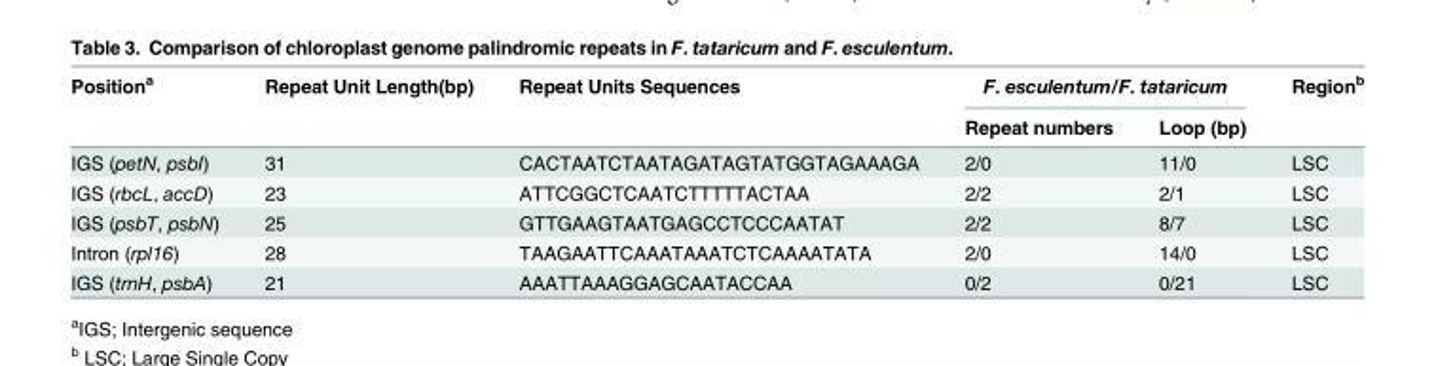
<table><thead><tr><td rowspan="2">Position<sup>a</sup></td><td rowspan="2">Repeat Unit Length(bp)</td><td rowspan="2">Repeat Units Sequences</td><td colspan="2">F. esculentum/F. tataricum</td><td rowspan="2">Region<sup>b</sup></td></tr><tr><td>Repeat numbers</td><td>Loop (bp)</td></tr></thead><tbody><tr><td>IGS (petN, psbI)</td><td>31</td><td>CACTAATCTAATAGATAGTATGGTAGAAAGA</td><td>2/0</td><td>11/0</td><td>LSC</td></tr><tr><td>IGS (rbcL, accD)</td><td>23</td><td>ATTCGGCTCAATCTTTTTACTAA</td><td>2/2</td><td>2/1</td><td>LSC</td></tr><tr><td>IGS (psbT, psbN)</td><td>25</td><td>GTTGAAGTAATGAGCCTCCCAATAT</td><td>2/2</td><td>8/7</td><td>LSC</td></tr><tr><td>Intron (rpl16)</td><td>28</td><td>TAAGAATTCAAATAAATCTCAAAATATA</td><td>2/0</td><td>14/0</td><td>LSC</td></tr><tr><td>IGS (trnH, psbA)</td><td>21</td><td>AAATTAAAGGAGCAATACCAA</td><td>0/2</td><td>0/21</td><td>LSC</td></tr></tbody></table>